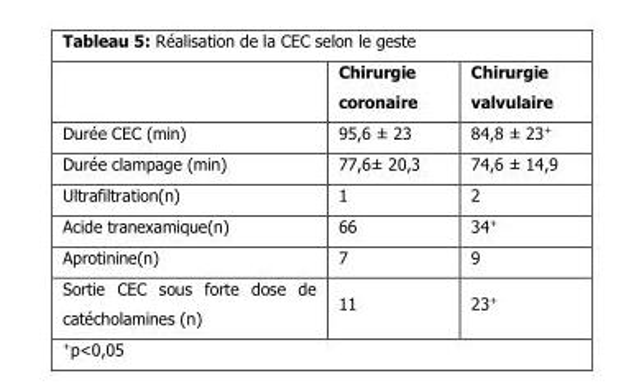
<table><thead><tr><td></td><td>Chirurgie coronaire</td><td>Chirurgie valvulaire</td></tr></thead><tbody><tr><td>Durée CEC (min)</td><td>95,6 ± 23</td><td>84,8 ± 23<sup>+</sup></td></tr><tr><td>Durée clampage (min)</td><td>77,6± 20,3</td><td>74,6 ± 14,9</td></tr><tr><td>Ultrafiltration(n)</td><td>1</td><td>2</td></tr><tr><td>Acide tranexamique(n)</td><td>66</td><td>34<sup>+</sup></td></tr><tr><td>Aprotinine(n)</td><td>7</td><td>9</td></tr><tr><td>Sortie CEC sous forte dose de catécholamines (n)</td><td>11</td><td>23<sup>+</sup></td></tr></tbody></table>